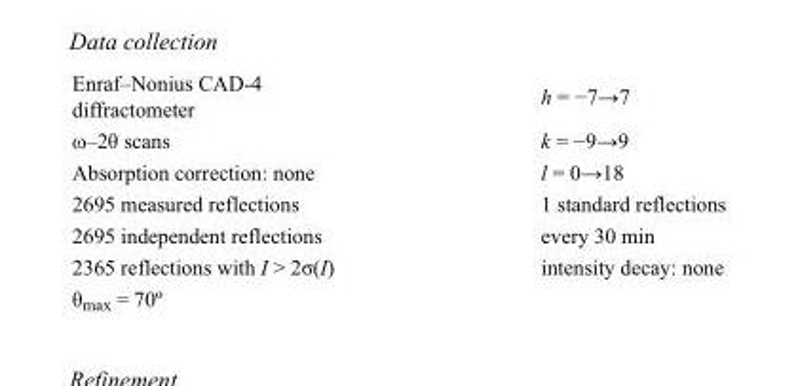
<table><tbody><tr><td>Enraf–Nonius CAD-4 diffractometer</td><td>h = −7→7</td></tr><tr><td>ω–2θ scans</td><td>k = −9→9</td></tr><tr><td>Absorption correction: none</td><td>l = 0→18</td></tr><tr><td>2695 measured reflections</td><td>1 standard reflections</td></tr><tr><td>2695 independent reflections</td><td>every 30 min</td></tr><tr><td>2365 reflections with I &gt; 2σ(I)</td><td>intensity decay: none</td></tr><tr><td>θ<sub>max</sub> = 70º</td><td></td></tr></tbody></table>